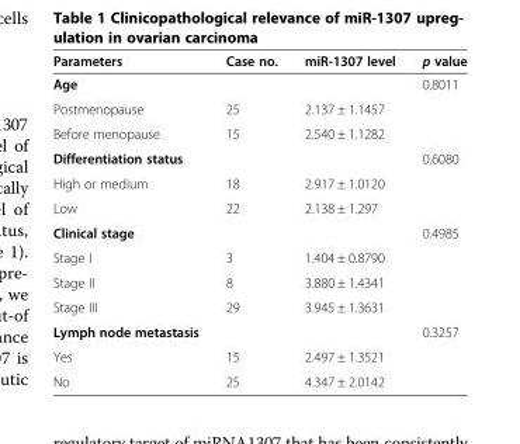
<table><thead><tr><td>Parameters</td><td>Case no.</td><td>miR-1307 level</td><td>p value</td></tr></thead><tbody><tr><td>Age</td><td></td><td></td><td>0.8011</td></tr><tr><td>Postmenopause</td><td>25</td><td>2.137 ± 1.1457</td><td></td></tr><tr><td>Before menopause</td><td>15</td><td>2.540 ± 1.1282</td><td></td></tr><tr><td>Differentiation status</td><td></td><td></td><td>0.6080</td></tr><tr><td>High or medium</td><td>18</td><td>2.917 ± 1.0120</td><td></td></tr><tr><td>Low</td><td>22</td><td>2.138 ± 1.297</td><td></td></tr><tr><td>Clinical stage</td><td></td><td></td><td>0.4985</td></tr><tr><td>Stage I</td><td>3</td><td>1.404 ± 0.8790</td><td></td></tr><tr><td>Stage II</td><td>8</td><td>3.880 ± 1.4341</td><td></td></tr><tr><td>Stage III</td><td>29</td><td>3.945 ± 1.3631</td><td></td></tr><tr><td>Lymph node metastasis</td><td></td><td></td><td>0.3257</td></tr><tr><td>Yes</td><td>15</td><td>2.497 ± 1.3521</td><td></td></tr><tr><td>No</td><td>25</td><td>4.347 ± 2.0142</td><td></td></tr></tbody></table>